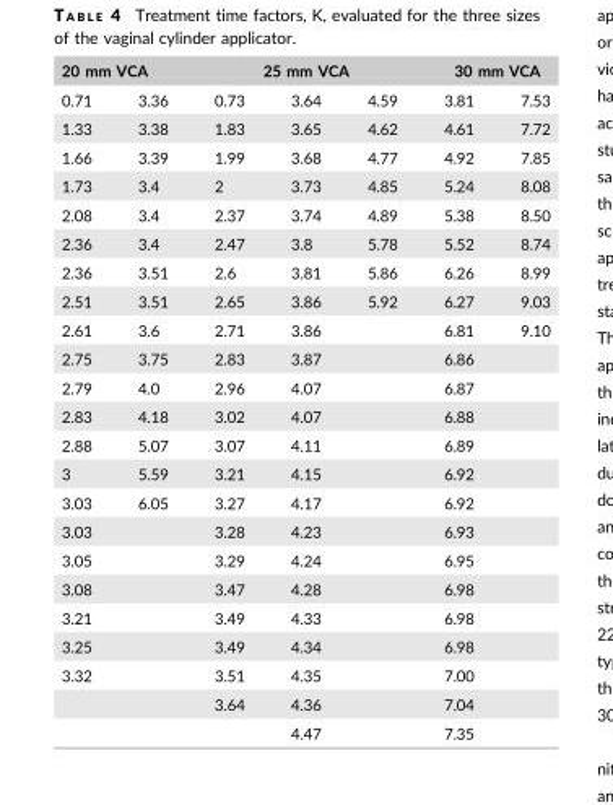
<table><thead><tr><td colspan="2">20 mm VCA</td><td colspan="3">25 mm VCA</td><td colspan="2">30 mm VCA</td></tr><tr><td>0.71</td><td>3.36</td><td>0.73</td><td>3.64</td><td>4.59</td><td>3.81</td><td>7.53</td></tr></thead><tbody><tr><td>1.33</td><td>3.38</td><td>1.83</td><td>3.65</td><td>4.62</td><td>4.61</td><td>7.72</td></tr><tr><td>1.66</td><td>3.39</td><td>1.99</td><td>3.68</td><td>4.77</td><td>4.92</td><td>7.85</td></tr><tr><td>1.73</td><td>3.4</td><td>2</td><td>3.73</td><td>4.85</td><td>5.24</td><td>8.08</td></tr><tr><td>2.08</td><td>3.4</td><td>2.37</td><td>3.74</td><td>4.89</td><td>5.38</td><td>8.50</td></tr><tr><td>2.36</td><td>3.4</td><td>2.47</td><td>3.8</td><td>5.78</td><td>5.52</td><td>8.74</td></tr><tr><td>2.36</td><td>3.51</td><td>2.6</td><td>3.81</td><td>5.86</td><td>6.26</td><td>8.99</td></tr><tr><td>2.51</td><td>3.51</td><td>2.65</td><td>3.86</td><td>5.92</td><td>6.27</td><td>9.03</td></tr><tr><td>2.61</td><td>3.6</td><td>2.71</td><td>3.86</td><td></td><td>6.81</td><td>9.10</td></tr><tr><td>2.75</td><td>3.75</td><td>2.83</td><td>3.87</td><td></td><td>6.86</td><td></td></tr><tr><td>2.79</td><td>4.0</td><td>2.96</td><td>4.07</td><td></td><td>6.87</td><td></td></tr><tr><td>2.83</td><td>4.18</td><td>3.02</td><td>4.07</td><td></td><td>6.88</td><td></td></tr><tr><td>2.88</td><td>5.07</td><td>3.07</td><td>4.11</td><td></td><td>6.89</td><td></td></tr><tr><td>3</td><td>5.59</td><td>3.21</td><td>4.15</td><td></td><td>6.92</td><td></td></tr><tr><td>3.03</td><td>6.05</td><td>3.27</td><td>4.17</td><td></td><td>6.92</td><td></td></tr><tr><td>3.03</td><td></td><td>3.28</td><td>4.23</td><td></td><td>6.93</td><td></td></tr><tr><td>3.05</td><td></td><td>3.29</td><td>4.24</td><td></td><td>6.95</td><td></td></tr><tr><td>3.08</td><td></td><td>3.47</td><td>4.28</td><td></td><td>6.98</td><td></td></tr><tr><td>3.21</td><td></td><td>3.49</td><td>4.33</td><td></td><td>6.98</td><td></td></tr><tr><td>3.25</td><td></td><td>3.49</td><td>4.34</td><td></td><td>6.98</td><td></td></tr><tr><td rowspan="3">3.32</td><td></td><td>3.51</td><td>4.35</td><td></td><td>7.00</td><td></td></tr><tr><td></td><td>3.64</td><td>4.36</td><td></td><td>7.04</td><td></td></tr><tr><td></td><td></td><td>4.47</td><td></td><td>7.35</td><td></td></tr></tbody></table>